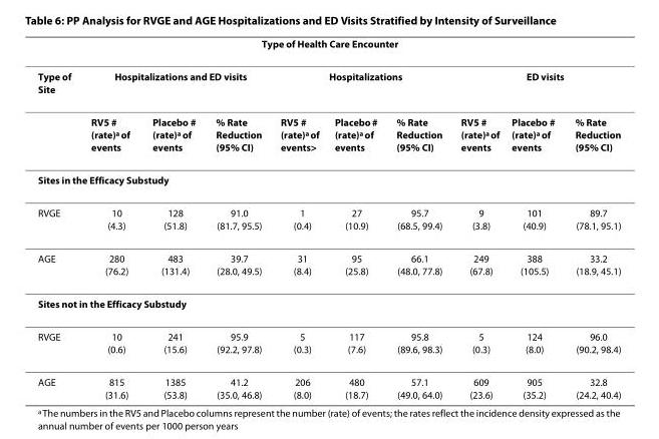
<table><thead><tr><td colspan="10">Type of Health Care Encounter</td></tr><tr><td rowspan="2">Type of Site</td><td colspan="3">Hospitalizations and ED visits</td><td colspan="3">Hospitalizations</td><td colspan="3">ED visits</td></tr><tr><td>RV5 # (rate)<sup>a</sup> of events</td><td>Placebo # (rate)<sup>a</sup> of events</td><td>% Rate Reduction (95% CI)</td><td>RV5 # (rate)<sup>a</sup> of events&gt;</td><td>Placebo # (rate)<sup>a</sup> of events</td><td>% Rate Reduction (95% CI)</td><td>RV5 # (rate)<sup>a</sup> of events</td><td>Placebo # (rate)<sup>a</sup> of events</td><td>% Rate Reduction (95% CI)</td></tr></thead><tbody><tr><td colspan="10">Sites in the Efficacy Substudy</td></tr><tr><td>RVGE</td><td>10 (4.3)</td><td>128 (51.8)</td><td>91.0 (81.7, 95.5)</td><td>1 (0.4)</td><td>27 (10.9)</td><td>95.7 (68.5, 99.4)</td><td>9 (3.8)</td><td>101 (40.9)</td><td>89.7 (78.1, 95.1)</td></tr><tr><td>AGE</td><td>280 (76.2)</td><td>483 (131.4)</td><td>39.7 (28.0, 49.5)</td><td>31 (8.4)</td><td>95 (25.8)</td><td>66.1 (48.0, 77.8)</td><td>249 (67.8)</td><td>388 (105.5)</td><td>33.2 (18.9, 45.1)</td></tr><tr><td colspan="10">Sites not in the Efficacy Substudy</td></tr><tr><td>RVGE</td><td>10 (0.6)</td><td>241 (15.6)</td><td>95.9 (92.2, 97.8)</td><td>5 (0.3)</td><td>117 (7.6)</td><td>95.8 (89.6, 98.3)</td><td>5 (0.3)</td><td>124 (8.0)</td><td>96.0 (90.2, 98.4)</td></tr><tr><td>AGE</td><td>815 (31.6)</td><td>1385 (53.8)</td><td>41.2 (35.0, 46.8)</td><td>206 (8.0)</td><td>480 (18.7)</td><td>57.1 (49.0, 64.0)</td><td>609 (23.6)</td><td>905 (35.2)</td><td>32.8 (24.2, 40.4)</td></tr></tbody></table>